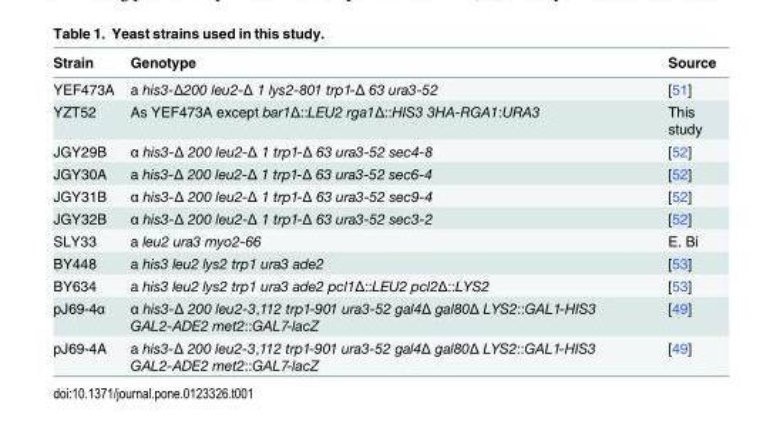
<table><thead><tr><td>Strain</td><td>Genotype</td><td>Source</td></tr></thead><tbody><tr><td>YEF473A</td><td>a his3-Δ200 leu2-Δ 1 lys2-801 trp1-Δ 63 ura3-52</td><td>[51]</td></tr><tr><td>YZT52</td><td>As YEF473A except bar1Δ::LEU2 rga1Δ::HIS3 3HA-RGA1:URA3</td><td>This study</td></tr><tr><td>JGY29B</td><td>α his3-Δ 200 leu2-Δ 1 trp1-Δ 63 ura3-52 sec4-8</td><td>[52]</td></tr><tr><td>JGY30A</td><td>a his3-Δ 200 leu2-Δ 1 trp1-Δ 63 ura3-52 sec6-4</td><td>[52]</td></tr><tr><td>JGY31B</td><td>α his3-Δ 200 leu2-Δ 1 trp1-Δ 63 ura3-52 sec9-4</td><td>[52]</td></tr><tr><td>JGY32B</td><td>α his3-Δ 200 leu2-Δ 1 trp1-Δ 63 ura3-52 sec3-2</td><td>[52]</td></tr><tr><td>SLY33</td><td>a leu2 ura3 myo2-66</td><td>E. Bi</td></tr><tr><td>BY448</td><td>a his3 leu2 lys2 trp1 ura3 ade2</td><td>[53]</td></tr><tr><td>BY634</td><td>a his3 leu2 lys2 trp1 ura3 ade2 pcl1Δ::LEU2 pcl2Δ::LYS2</td><td>[53]</td></tr><tr><td>pJ69-4α</td><td>α his3-Δ 200 leu2-3,112 trp1-901 ura3-52 gal4Δ gal80Δ LYS2::GAL1-HIS3 GAL2-ADE2 met2::GAL7-lacZ</td><td>[49]</td></tr><tr><td>pJ69-4A</td><td>a his3-Δ 200 leu2-3,112 trp1-901 ura3-52 gal4Δ gal80Δ LYS2::GAL1-HIS3 GAL2-ADE2 met2::GAL7-lacZ</td><td>[49]</td></tr></tbody></table>